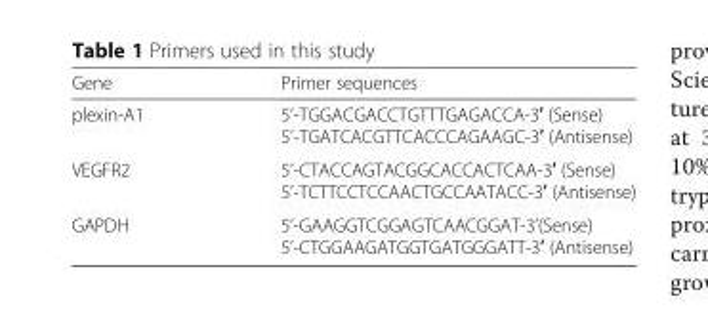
<table><thead><tr><td>Gene</td><td>Primer sequences</td></tr></thead><tbody><tr><td>plexin-A1</td><td>5’-TGGACGACCTGTTTGAGACCA-3′ (Sense) 5’-TGATCACGTTCACCCAGAAGC-3′ (Antisense)</td></tr><tr><td>VEGFR2</td><td>5’-CTACCAGTACGGCACCACTCAA-3′ (Sense) 5’-TCTTCCTCCAACTGCCAATACC-3′ (Antisense)</td></tr><tr><td>GAPDH</td><td>5’-GAAGGTCGGAGTCAACGGAT-3’(Sense) 5’-CTGGAAGATGGTGATGGGATT-3′ (Antisense)</td></tr></tbody></table>